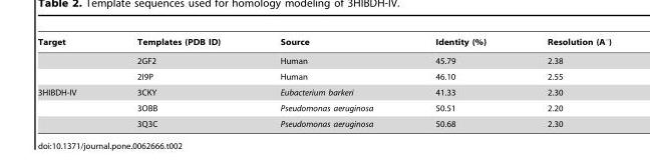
<table><thead><tr><td>Target</td><td>Templates (PDB ID)</td><td>Source</td><td>Identity (%)</td><td>Resolution (A°)</td></tr></thead><tbody><tr><td></td><td>2GF2</td><td>Human</td><td>45.79</td><td>2.38</td></tr><tr><td></td><td>2I9P</td><td>Human</td><td>46.10</td><td>2.55</td></tr><tr><td rowspan="3">3HIBDH-IV</td><td>3CKY</td><td>Eubacterium barkeri</td><td>41.33</td><td>2.30</td></tr><tr><td>3OBB</td><td>Pseudomonas aeruginosa</td><td>50.51</td><td>2.20</td></tr><tr><td>3Q3C</td><td>Pseudomonas aeruginosa</td><td>50.68</td><td>2.30</td></tr></tbody></table>